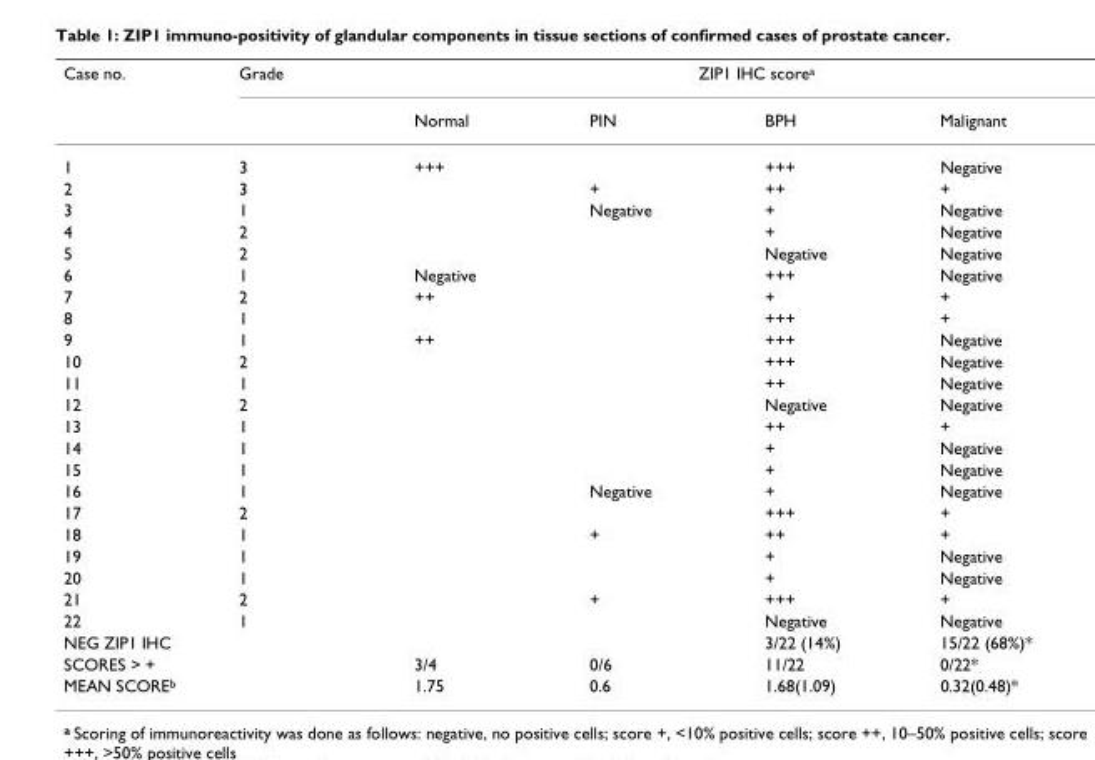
<table><thead><tr><td rowspan="2">Case no.</td><td rowspan="2">Grade</td><td colspan="4">ZIP1 IHC score<sup>a</sup></td></tr><tr><td>Normal</td><td>PIN</td><td>BPH</td><td>Malignant</td></tr></thead><tbody><tr><td>1</td><td>3</td><td>+++</td><td></td><td>+++</td><td>Negative</td></tr><tr><td>2</td><td>3</td><td></td><td>+</td><td>++</td><td>+</td></tr><tr><td>3</td><td>1</td><td></td><td>Negative</td><td>+</td><td>Negative</td></tr><tr><td>4</td><td>2</td><td></td><td></td><td>+</td><td>Negative</td></tr><tr><td>5</td><td>2</td><td></td><td></td><td>Negative</td><td>Negative</td></tr><tr><td>6</td><td>1</td><td>Negative</td><td></td><td>+++</td><td>Negative</td></tr><tr><td>7</td><td>2</td><td>++</td><td></td><td>+</td><td>+</td></tr><tr><td>8</td><td>1</td><td></td><td></td><td>+++</td><td>+</td></tr><tr><td>9</td><td>1</td><td>++</td><td></td><td>+++</td><td>Negative</td></tr><tr><td>10</td><td>2</td><td></td><td></td><td>+++</td><td>Negative</td></tr><tr><td>11</td><td>1</td><td></td><td></td><td>++</td><td>Negative</td></tr><tr><td>12</td><td>2</td><td></td><td></td><td>Negative</td><td>Negative</td></tr><tr><td>13</td><td>1</td><td></td><td></td><td>++</td><td>+</td></tr><tr><td>14</td><td>1</td><td></td><td></td><td>+</td><td>Negative</td></tr><tr><td>15</td><td>1</td><td></td><td></td><td>+</td><td>Negative</td></tr><tr><td>16</td><td>1</td><td></td><td>Negative</td><td>+</td><td>Negative</td></tr><tr><td>17</td><td>2</td><td></td><td></td><td>+++</td><td>+</td></tr><tr><td>18</td><td>1</td><td></td><td>+</td><td>++</td><td>+</td></tr><tr><td>19</td><td>1</td><td></td><td></td><td>+</td><td>Negative</td></tr><tr><td>20</td><td>1</td><td></td><td></td><td>+</td><td>Negative</td></tr><tr><td>21</td><td>2</td><td></td><td>+</td><td>+++</td><td>+</td></tr><tr><td>22</td><td>1</td><td></td><td></td><td>Negative</td><td>Negative</td></tr><tr><td colspan="2">NEG ZIP1 IHC</td><td></td><td></td><td>3/22 (14%)</td><td>15/22 (68%)*</td></tr><tr><td colspan="2">SCORES &gt; +</td><td>3/4</td><td>0/6</td><td>11/22</td><td>0/22*</td></tr><tr><td colspan="2">MEAN SCORE<sup>b</sup></td><td>1.75</td><td>0.6</td><td>1.68(1.09)</td><td>0.32(0.48)*</td></tr></tbody></table>